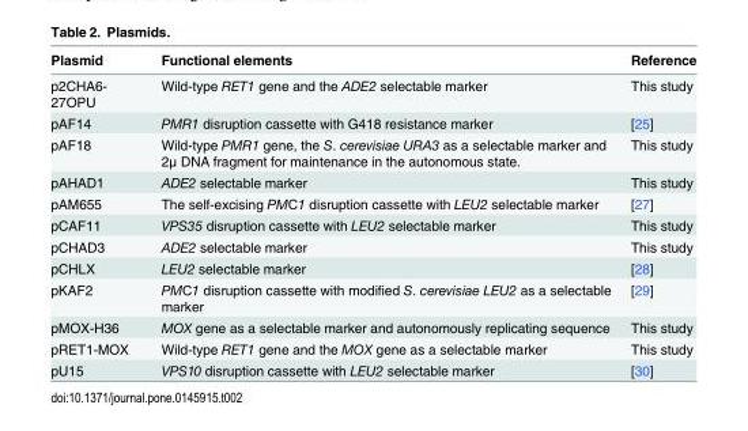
<table><thead><tr><td>Plasmid</td><td>Functional elements</td><td>Reference</td></tr></thead><tbody><tr><td>p2CHA6- 27OPU</td><td>Wild-type RET1 gene and the ADE2 selectable marker</td><td>This study</td></tr><tr><td>pAF14</td><td>PMR1 disruption cassette with G418 resistance marker</td><td>[25]</td></tr><tr><td>pAF18</td><td>Wild-type PMR1 gene, the S. cerevisiae URA3 as a selectable marker and 2μ DNA fragment for maintenance in the autonomous state.</td><td>This study</td></tr><tr><td>pAHAD1</td><td>ADE2 selectable marker</td><td>This study</td></tr><tr><td>pAM655</td><td>The self-excising PMС1 disruption cassette with LEU2 selectable marker</td><td>[27]</td></tr><tr><td>pCAF11</td><td>VPS35 disruption cassette with LEU2 selectable marker</td><td>This study</td></tr><tr><td>pCHAD3</td><td>ADE2 selectable marker</td><td>This study</td></tr><tr><td>pCHLX</td><td>LEU2 selectable marker</td><td>[28]</td></tr><tr><td>pKAF2</td><td>PMС1 disruption cassette with modified S. cerevisiae LEU2 as a selectable marker</td><td>[29]</td></tr><tr><td>pMOX-H36</td><td>MOX gene as a selectable marker and autonomously replicating sequence</td><td>This study</td></tr><tr><td>pRET1-MOX</td><td>Wild-type RET1 gene and the MOX gene as a selectable marker</td><td>This study</td></tr><tr><td>pU15</td><td>VPS10 disruption cassette with LEU2 selectable marker</td><td>[30]</td></tr></tbody></table>